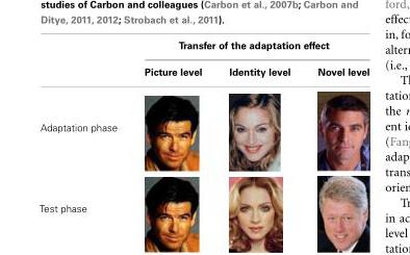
<table><thead><tr><td rowspan="2"></td><td colspan="3">Transfer of the adaptation effect</td></tr><tr><td>Picture level</td><td>Identity level</td><td>Novel level</td></tr></thead><tbody><tr><td colspan="4">Adaptation phase</td></tr><tr><td>Test phase</td><td></td><td></td><td></td></tr></tbody></table>